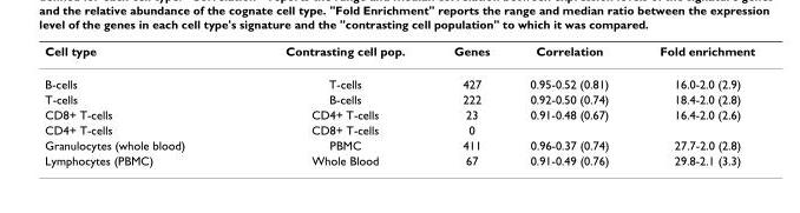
<table><thead><tr><td>Cell type</td><td>Contrasting cell pop.</td><td>Genes</td><td>Correlation</td><td>Fold enrichment</td></tr></thead><tbody><tr><td>B-cells</td><td>T-cells</td><td>427</td><td>0.95-0.52 (0.81)</td><td>16.0-2.0 (2.9)</td></tr><tr><td>T-cells</td><td>B-cells</td><td>222</td><td>0.92-0.50 (0.74)</td><td>18.4-2.0 (2.8)</td></tr><tr><td>CD8+ T-cells</td><td>CD4+ T-cells</td><td>23</td><td>0.91-0.48 (0.67)</td><td>16.4-2.0 (2.6)</td></tr><tr><td>CD4+ T-cells</td><td>CD8+ T-cells</td><td>0</td><td></td><td></td></tr><tr><td>Granulocytes (whole blood)</td><td>PBMC</td><td>411</td><td>0.96-0.37 (0.74)</td><td>27.7-2.0 (2.8)</td></tr><tr><td>Lymphocytes (PBMC)</td><td>Whole Blood</td><td>67</td><td>0.91-0.49 (0.76)</td><td>29.8-2.1 (3.3)</td></tr></tbody></table>